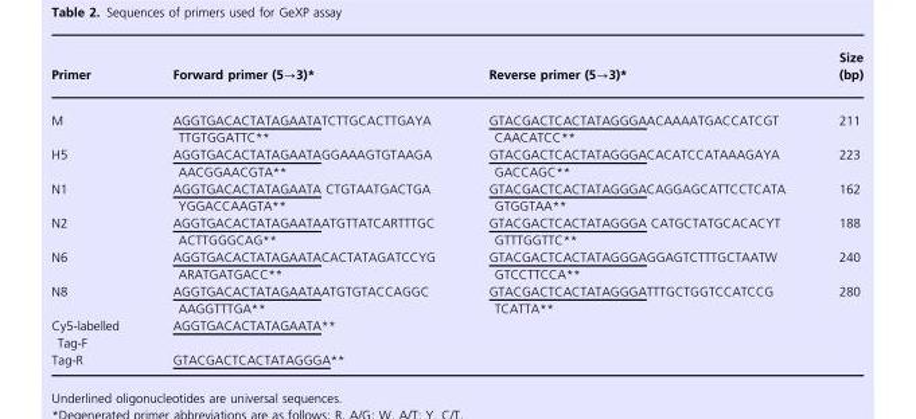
<table><thead><tr><td>Primer</td><td>Forward primer (5→3)*</td><td>Reverse primer (5→3)*</td><td>Size (bp)</td></tr></thead><tbody><tr><td>M</td><td>AGGTGACACTATAGAATATCTTGCACTTGAYA TTGTGGATTC**</td><td>GTACGACTCACTATAGGGAACAAAATGACCATCGT CAACATCC**</td><td>211</td></tr><tr><td>H5</td><td>AGGTGACACTATAGAATAGGAAAGTGTAAGA AACGGAACGTA**</td><td>GTACGACTCACTATAGGGACACATCCATAAAGAYA GACCAGC**</td><td>223</td></tr><tr><td>N1</td><td>AGGTGACACTATAGAATA CTGTAATGACTGA YGGACCAAGTA**</td><td>GTACGACTCACTATAGGGACAGGAGCATTCCTCATA GTGGTAA**</td><td>162</td></tr><tr><td>N2</td><td>AGGTGACACTATAGAATAATGTTATCARTTTGC ACTTGGGCAG**</td><td>GTACGACTCACTATAGGGA CATGCTATGCACACYT GTTTGGTTC**</td><td>188</td></tr><tr><td>N6</td><td>AGGTGACACTATAGAATACACTATAGATCCYG ARATGATGACC**</td><td>GTACGACTCACTATAGGGAGGAGTCTTTGCTAATW GTCCTTCCA**</td><td>240</td></tr><tr><td>N8</td><td>AGGTGACACTATAGAATAATGTGTACCAGGC AAGGTTTGA**</td><td>GTACGACTCACTATAGGGATTTGCTGGTCCATCCG TCATTA**</td><td>280</td></tr><tr><td>Cy5-labelled Tag-F</td><td>AGGTGACACTATAGAATA**</td><td></td><td></td></tr><tr><td>Tag-R</td><td>GTACGACTCACTATAGGGA**</td><td></td><td></td></tr></tbody></table>